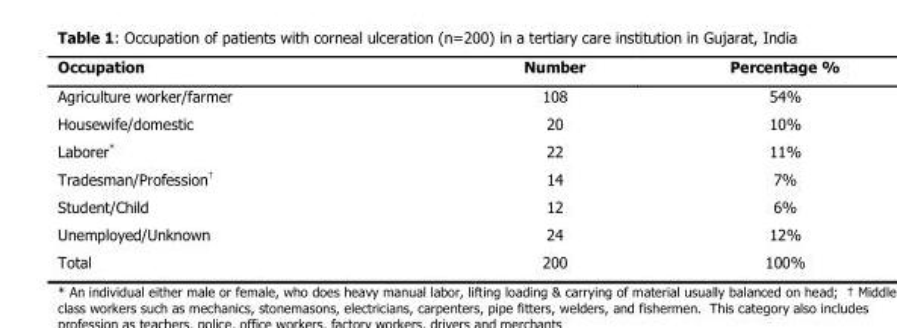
<table><thead><tr><td>Occupation</td><td>Number</td><td>Percentage %</td></tr></thead><tbody><tr><td>Agriculture worker/farmer</td><td>108</td><td>54%</td></tr><tr><td>Housewife/domestic</td><td>20</td><td>10%</td></tr><tr><td>Laborer*</td><td>22</td><td>11%</td></tr><tr><td>Tradesman/Profession†</td><td>14</td><td>7%</td></tr><tr><td>Student/Child</td><td>12</td><td>6%</td></tr><tr><td>Unemployed/Unknown</td><td>24</td><td>12%</td></tr><tr><td>Total</td><td>200</td><td>100%</td></tr></tbody></table>